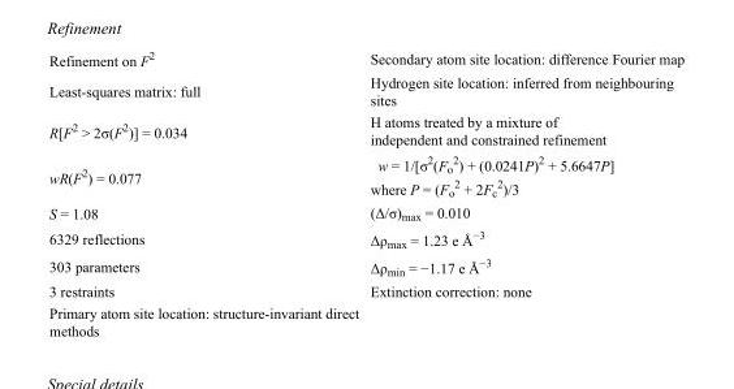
<table><tbody><tr><td>Refinement on F<sup>2</sup></td><td>Secondary atom site location: difference Fourier map</td></tr><tr><td>Least-squares matrix: full</td><td>Hydrogen site location: inferred from neighbouring sites</td></tr><tr><td>R[F<sup>2</sup> &gt; 2σ(F<sup>2</sup>)] = 0.034</td><td>H atoms treated by a mixture of independent and constrained refinement</td></tr><tr><td>wR(F<sup>2</sup>) = 0.077</td><td>w = 1/[σ<sup>2</sup>(F<sub>o</sub> <sup>2</sup>) + (0.0241P)<sup>2</sup> + 5.6647P] where P = (F<sub>o</sub> <sup>2</sup> + 2F<sub>c</sub> <sup>2</sup>)/3</td></tr><tr><td>S = 1.08</td><td>(Δ/σ)<sub>max</sub> = 0.010</td></tr><tr><td>6329 reflections</td><td>Δρ<sub>max</sub> = 1.23 e Å<sup>−3</sup></td></tr><tr><td>303 parameters</td><td>Δρ<sub>min</sub> = −1.17 e Å<sup>−3</sup></td></tr><tr><td>3 restraints</td><td>Extinction correction: none</td></tr><tr><td>Primary atom site location: structure-invariant direct methods</td><td></td></tr></tbody></table>